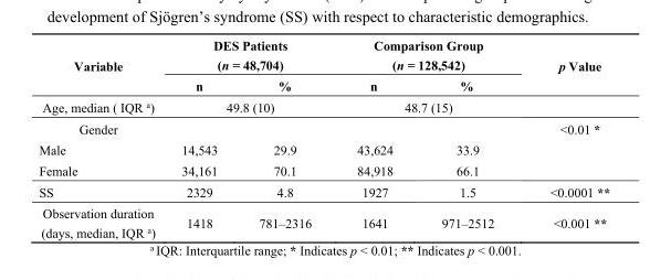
<table><thead><tr><td rowspan="2">Variable</td><td colspan="2">DES Patients (n = 48,704)</td><td colspan="2">Comparison Group (n = 128,542)</td><td rowspan="2">p Value</td></tr><tr><td>n</td><td>%</td><td>n</td><td>%</td></tr></thead><tbody><tr><td>Age, median ( IQR <sup>a</sup>)</td><td colspan="2">49.8 (10)</td><td colspan="2">48.7 (15)</td><td></td></tr><tr><td>Gender</td><td></td><td></td><td></td><td></td><td>&lt;0.01 *</td></tr><tr><td>Male</td><td>14,543</td><td>29.9</td><td>43,624</td><td>33.9</td><td></td></tr><tr><td>Female</td><td>34,161</td><td>70.1</td><td>84,918</td><td>66.1</td><td></td></tr><tr><td>SS</td><td>2329</td><td>4.8</td><td>1927</td><td>1.5</td><td>&lt;0.0001 **</td></tr><tr><td>Observation duration (days, median, IQR <sup>a</sup>)</td><td>1418</td><td>781–2316</td><td>1641</td><td>971–2512</td><td>&lt;0.001 **</td></tr></tbody></table>